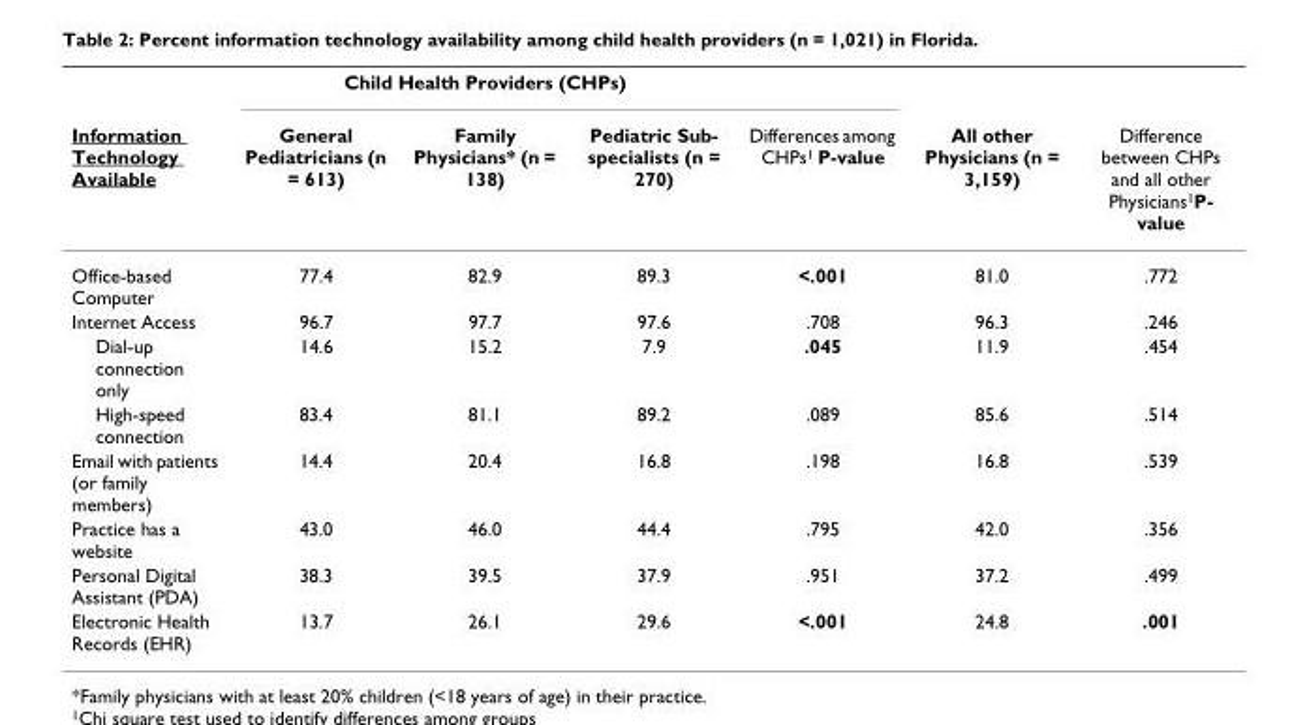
<table><thead><tr><td rowspan="2">Information Technology Available</td><td colspan="3">Child Health Providers (CHPs)</td><td rowspan="2">Differences among CHPs<sup>1</sup> P-value</td><td rowspan="2">All other Physicians (n = 3,159)</td><td rowspan="2">Difference between CHPs and all other Physicians<sup>1</sup>P- value</td></tr><tr><td>General Pediatricians (n = 613)</td><td>Family Physicians* (n = 138)</td><td>Pediatric Sub- specialists (n = 270)</td></tr></thead><tbody><tr><td>Office-based Computer</td><td>77.4</td><td>82.9</td><td>89.3</td><td>&lt;.001</td><td>81.0</td><td>.772</td></tr><tr><td>Internet Access</td><td>96.7</td><td>97.7</td><td>97.6</td><td>.708</td><td>96.3</td><td>.246</td></tr><tr><td>Dial-up connection only</td><td>14.6</td><td>15.2</td><td>7.9</td><td>.045</td><td>11.9</td><td>.454</td></tr><tr><td>High-speed connection</td><td>83.4</td><td>81.1</td><td>89.2</td><td>.089</td><td>85.6</td><td>.514</td></tr><tr><td>Email with patients (or family members)</td><td>14.4</td><td>20.4</td><td>16.8</td><td>.198</td><td>16.8</td><td>.539</td></tr><tr><td>Practice has a website</td><td>43.0</td><td>46.0</td><td>44.4</td><td>.795</td><td>42.0</td><td>.356</td></tr><tr><td>Personal Digital Assistant (PDA)</td><td>38.3</td><td>39.5</td><td>37.9</td><td>.951</td><td>37.2</td><td>.499</td></tr><tr><td>Electronic Health Records (EHR)</td><td>13.7</td><td>26.1</td><td>29.6</td><td>&lt;.001</td><td>24.8</td><td>.001</td></tr></tbody></table>